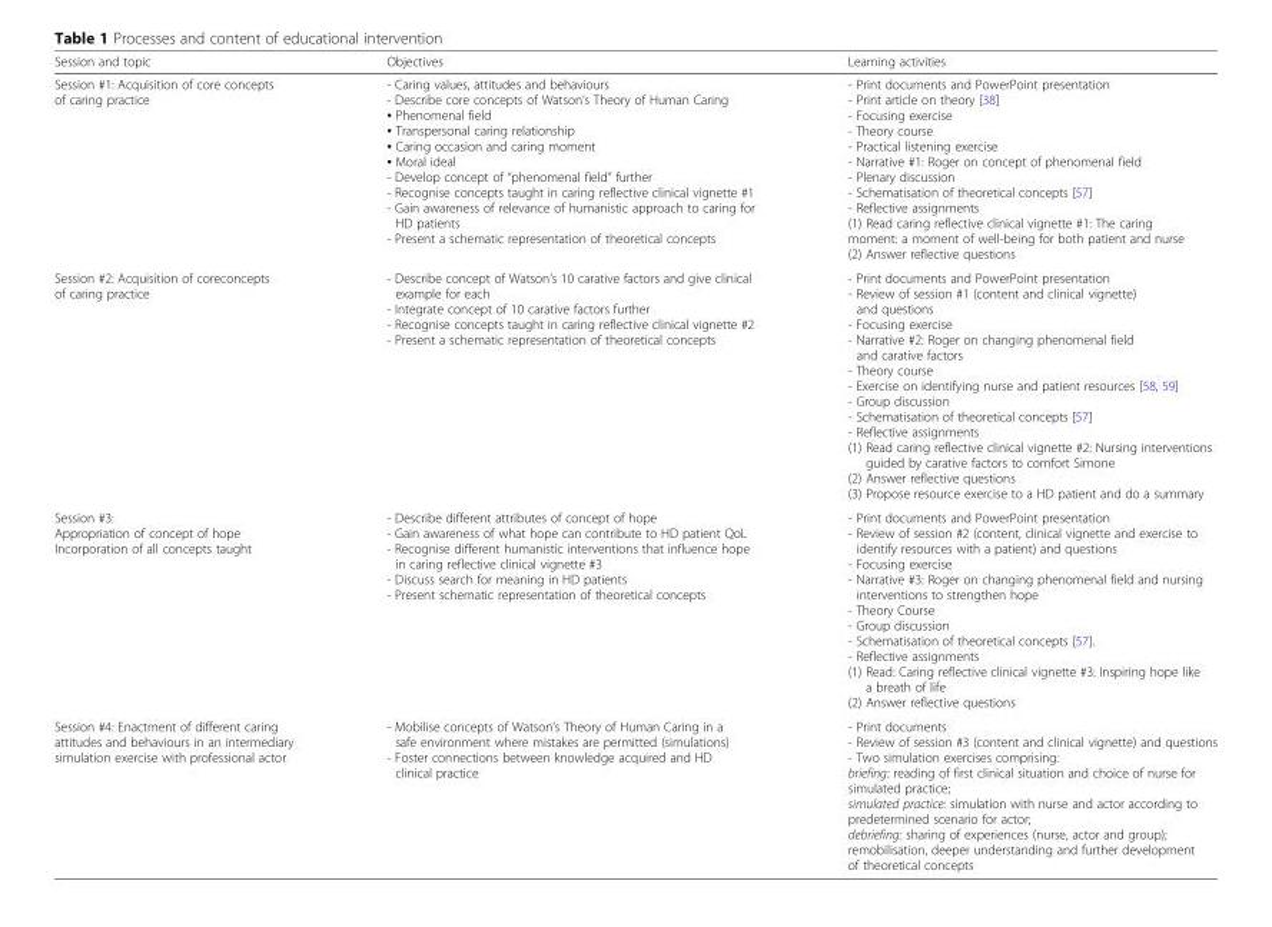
<table><thead><tr><td>Session and topic</td><td>Objectives</td><td>Learning activities</td></tr></thead><tbody><tr><td>Session #1: Acquisition of core concepts of caring practice</td><td>- Caring values, attitudes and behaviours - Describe core concepts of Watson’s Theory of Human Caring ▪ Phenomenal field ▪ Transpersonal caring relationship ▪ Caring occasion and caring moment ▪ Moral ideal - Develop concept of “phenomenal field” further - Recognise concepts taught in caring reflective clinical vignette #1 - Gain awareness of relevance of humanistic approach to caring for HD patients - Present a schematic representation of theoretical concepts</td><td>- Print documents and PowerPoint presentation - Print article on theory [38] - Focusing exercise - Theory course - Practical listening exercise - Narrative #1: Roger on concept of phenomenal field - Plenary discussion - Schematisation of theoretical concepts [57] - Reflective assignments (1) Read caring reflective clinical vignette #1: The caring moment: a moment of well-being for both patient and nurse (2) Answer reflective questions</td></tr><tr><td>Session #2: Acquisition of coreconcepts of caring practice</td><td>- Describe concept of Watson’s 10 carative factors and give clinical example for each - Integrate concept of 10 carative factors further - Recognise concepts taught in caring reflective clinical vignette #2 - Present a schematic representation of theoretical concepts</td><td>- Print documents and PowerPoint presentation - Review of session #1 (content and clinical vignette) and questions - Focusing exercise - Narrative #2: Roger on changing phenomenal field and carative factors - Theory course - Exercise on identifying nurse and patient resources [58, 59] - Group discussion - Schematisation of theoretical concepts [57] - Reflective assignments (1) Read caring reflective clinical vignette #2: Nursing interventions guided by carative factors to comfort Simone (2) Answer reflective questions (3) Propose resource exercise to a HD patient and do a summary</td></tr><tr><td>Session #3: Appropriation of concept of hope Incorporation of all concepts taught</td><td>- Describe different attributes of concept of hope - Gain awareness of what hope can contribute to HD patient QoL - Recognise different humanistic interventions that influence hope in caring reflective clinical vignette #3 - Discuss search for meaning in HD patients - Present schematic representation of theoretical concepts</td><td>- Print documents and PowerPoint presentation - Review of session #2 (content, clinical vignette and exercise to identify resources with a patient) and questions - Focusing exercise - Narrative #3: Roger on changing phenomenal field and nursing interventions to strengthen hope - Theory Course - Group discussion - Schematisation of theoretical concepts [57]. - Reflective assignments (1) Read: Caring reflective clinical vignette #3: Inspiring hope like a breath of life (2) Answer reflective questions</td></tr><tr><td>Session #4: Enactment of different caring attitudes and behaviours in an intermediary simulation exercise with professional actor</td><td>- Mobilise concepts of Watson’s Theory of Human Caring in a safe environment where mistakes are permitted (simulations) - Foster connections between knowledge acquired and HD clinical practice</td><td>- Print documents - Review of session #3 (content and clinical vignette) and questions - Two simulation exercises comprising: briefing: reading of first clinical situation and choice of nurse for simulated practice; simulated practice: simulation with nurse and actor according to predetermined scenario for actor; debriefing: sharing of experiences (nurse, actor and group); remobilisation, deeper understanding and further development of theoretical concepts</td></tr></tbody></table>